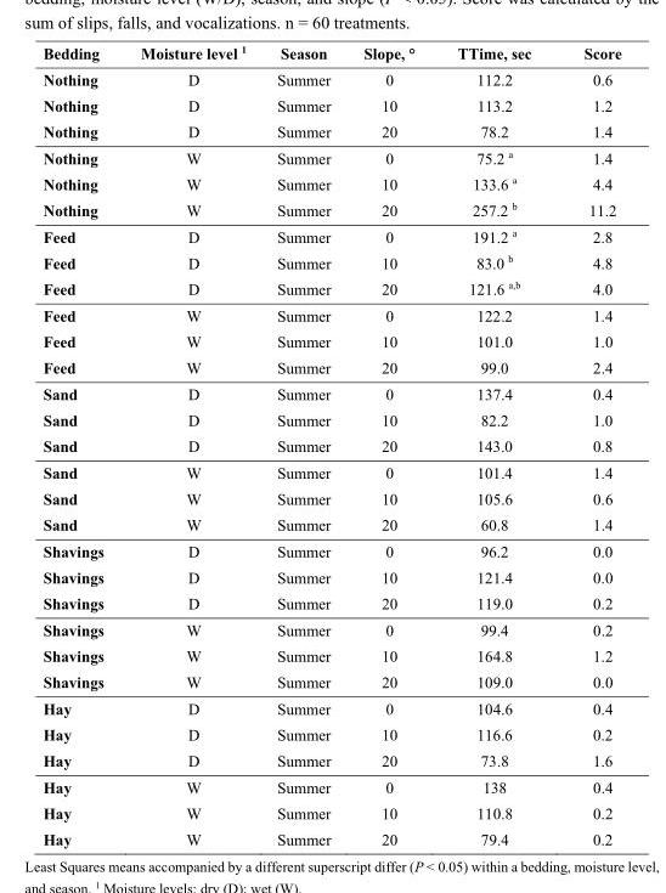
<table><thead><tr><td>Bedding</td><td>Moisture level <sup>1</sup></td><td>Season</td><td>Slope, °</td><td>TTime, sec</td><td>Score</td></tr></thead><tbody><tr><td>Nothing</td><td>D</td><td>Summer</td><td>0</td><td>112.2</td><td>0.6</td></tr><tr><td>Nothing</td><td>D</td><td>Summer</td><td>10</td><td>113.2</td><td>1.2</td></tr><tr><td>Nothing</td><td>D</td><td>Summer</td><td>20</td><td>78.2</td><td>1.4</td></tr><tr><td>Nothing</td><td>W</td><td>Summer</td><td>0</td><td>75.2 <sup>a</sup></td><td>1.4</td></tr><tr><td>Nothing</td><td>W</td><td>Summer</td><td>10</td><td>133.6 <sup>a</sup></td><td>4.4</td></tr><tr><td>Nothing</td><td>W</td><td>Summer</td><td>20</td><td>257.2 <sup>b</sup></td><td>11.2</td></tr><tr><td>Feed</td><td>D</td><td>Summer</td><td>0</td><td>191.2 <sup>a</sup></td><td>2.8</td></tr><tr><td>Feed</td><td>D</td><td>Summer</td><td>10</td><td>83.0 <sup>b</sup></td><td>4.8</td></tr><tr><td>Feed</td><td>D</td><td>Summer</td><td>20</td><td>121.6 <sup>a,b</sup></td><td>4.0</td></tr><tr><td>Feed</td><td>W</td><td>Summer</td><td>0</td><td>122.2</td><td>1.4</td></tr><tr><td>Feed</td><td>W</td><td>Summer</td><td>10</td><td>101.0</td><td>1.0</td></tr><tr><td>Feed</td><td>W</td><td>Summer</td><td>20</td><td>99.0</td><td>2.4</td></tr><tr><td>Sand</td><td>D</td><td>Summer</td><td>0</td><td>137.4</td><td>0.4</td></tr><tr><td>Sand</td><td>D</td><td>Summer</td><td>10</td><td>82.2</td><td>1.0</td></tr><tr><td>Sand</td><td>D</td><td>Summer</td><td>20</td><td>143.0</td><td>0.8</td></tr><tr><td>Sand</td><td>W</td><td>Summer</td><td>0</td><td>101.4</td><td>1.4</td></tr><tr><td>Sand</td><td>W</td><td>Summer</td><td>10</td><td>105.6</td><td>0.6</td></tr><tr><td>Sand</td><td>W</td><td>Summer</td><td>20</td><td>60.8</td><td>1.4</td></tr><tr><td>Shavings</td><td>D</td><td>Summer</td><td>0</td><td>96.2</td><td>0.0</td></tr><tr><td>Shavings</td><td>D</td><td>Summer</td><td>10</td><td>121.4</td><td>0.0</td></tr><tr><td>Shavings</td><td>D</td><td>Summer</td><td>20</td><td>119.0</td><td>0.2</td></tr><tr><td>Shavings</td><td>W</td><td>Summer</td><td>0</td><td>99.4</td><td>0.2</td></tr><tr><td>Shavings</td><td>W</td><td>Summer</td><td>10</td><td>164.8</td><td>1.2</td></tr><tr><td>Shavings</td><td>W</td><td>Summer</td><td>20</td><td>109.0</td><td>0.0</td></tr><tr><td>Hay</td><td>D</td><td>Summer</td><td>0</td><td>104.6</td><td>0.4</td></tr><tr><td>Hay</td><td>D</td><td>Summer</td><td>10</td><td>116.6</td><td>0.2</td></tr><tr><td>Hay</td><td>D</td><td>Summer</td><td>20</td><td>73.8</td><td>1.6</td></tr><tr><td>Hay</td><td>W</td><td>Summer</td><td>0</td><td>138</td><td>0.4</td></tr><tr><td>Hay</td><td>W</td><td>Summer</td><td>10</td><td>110.8</td><td>0.2</td></tr><tr><td>Hay</td><td>W</td><td>Summer</td><td>20</td><td>79.4</td><td>0.2</td></tr></tbody></table>